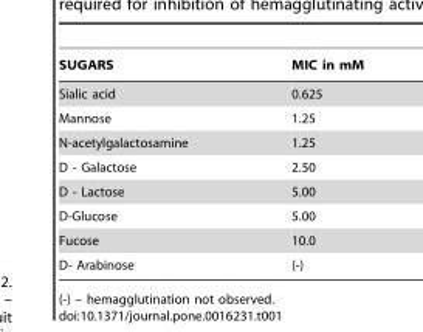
<table><thead><tr><td>SUGARS</td><td>MIC in mM</td></tr></thead><tbody><tr><td>Sialic acid</td><td>0.625</td></tr><tr><td>Mannose</td><td>1.25</td></tr><tr><td>N-acetylgalactosamine</td><td>1.25</td></tr><tr><td>D - Galactose</td><td>2.50</td></tr><tr><td>D - Lactose</td><td>5.00</td></tr><tr><td>D-Glucose</td><td>5.00</td></tr><tr><td>Fucose</td><td>10.0</td></tr><tr><td>D- Arabinose</td><td>(-)</td></tr></tbody></table>